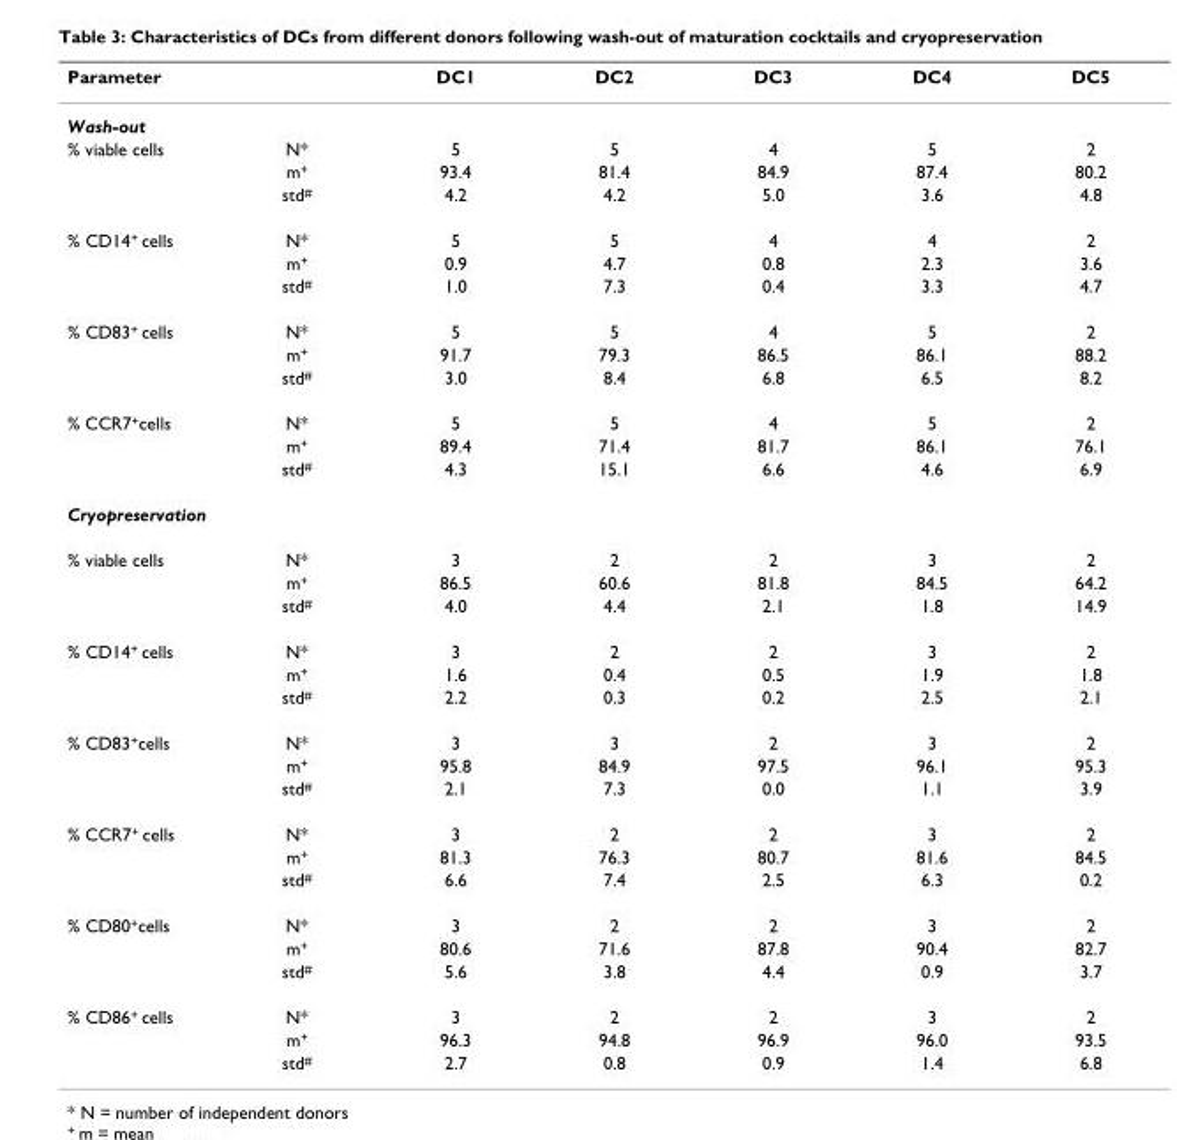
<table><thead><tr><td>Parameter</td><td></td><td>DC1</td><td>DC2</td><td>DC3</td><td>DC4</td><td>DC5</td></tr></thead><tbody><tr><td colspan="7">Wash-out</td></tr><tr><td rowspan="3">% viable cells</td><td>N*</td><td>5</td><td>5</td><td>4</td><td>5</td><td>2</td></tr><tr><td>m<sup>+</sup></td><td>93.4</td><td>81.4</td><td>84.9</td><td>87.4</td><td>80.2</td></tr><tr><td>std<sup>#</sup></td><td>4.2</td><td>4.2</td><td>5.0</td><td>3.6</td><td>4.8</td></tr><tr><td rowspan="3">% CD14<sup>+</sup> cells</td><td>N*</td><td>5</td><td>5</td><td>4</td><td>4</td><td>2</td></tr><tr><td>m<sup>+</sup></td><td>0.9</td><td>4.7</td><td>0.8</td><td>2.3</td><td>3.6</td></tr><tr><td>std<sup>#</sup></td><td>1.0</td><td>7.3</td><td>0.4</td><td>3.3</td><td>4.7</td></tr><tr><td rowspan="3">% CD83<sup>+</sup> cells</td><td>N*</td><td>5</td><td>5</td><td>4</td><td>5</td><td>2</td></tr><tr><td>m<sup>+</sup></td><td>91.7</td><td>79.3</td><td>86.5</td><td>86.1</td><td>88.2</td></tr><tr><td>std<sup>#</sup></td><td>3.0</td><td>8.4</td><td>6.8</td><td>6.5</td><td>8.2</td></tr><tr><td rowspan="3">% CCR7<sup>+</sup>cells</td><td>N*</td><td>5</td><td>5</td><td>4</td><td>5</td><td>2</td></tr><tr><td>m<sup>+</sup></td><td>89.4</td><td>71.4</td><td>81.7</td><td>86.1</td><td>76.1</td></tr><tr><td>std<sup>#</sup></td><td>4.3</td><td>15.1</td><td>6.6</td><td>4.6</td><td>6.9</td></tr><tr><td colspan="7">Cryopreservation</td></tr><tr><td rowspan="3">% viable cells</td><td>N*</td><td>3</td><td>2</td><td>2</td><td>3</td><td>2</td></tr><tr><td>m<sup>+</sup></td><td>86.5</td><td>60.6</td><td>81.8</td><td>84.5</td><td>64.2</td></tr><tr><td>std<sup>#</sup></td><td>4.0</td><td>4.4</td><td>2.1</td><td>1.8</td><td>14.9</td></tr><tr><td rowspan="3">% CD14<sup>+</sup> cells</td><td>N*</td><td>3</td><td>2</td><td>2</td><td>3</td><td>2</td></tr><tr><td>m<sup>+</sup></td><td>1.6</td><td>0.4</td><td>0.5</td><td>1.9</td><td>1.8</td></tr><tr><td>std<sup>#</sup></td><td>2.2</td><td>0.3</td><td>0.2</td><td>2.5</td><td>2.1</td></tr><tr><td rowspan="3">% CD83<sup>+</sup>cells</td><td>N*</td><td>3</td><td>3</td><td>2</td><td>3</td><td>2</td></tr><tr><td>m<sup>+</sup></td><td>95.8</td><td>84.9</td><td>97.5</td><td>96.1</td><td>95.3</td></tr><tr><td>std<sup>#</sup></td><td>2.1</td><td>7.3</td><td>0.0</td><td>1.1</td><td>3.9</td></tr><tr><td rowspan="3">% CCR7<sup>+</sup> cells</td><td>N*</td><td>3</td><td>2</td><td>2</td><td>3</td><td>2</td></tr><tr><td>m<sup>+</sup></td><td>81.3</td><td>76.3</td><td>80.7</td><td>81.6</td><td>84.5</td></tr><tr><td>std<sup>#</sup></td><td>6.6</td><td>7.4</td><td>2.5</td><td>6.3</td><td>0.2</td></tr><tr><td rowspan="3">% CD80<sup>+</sup>cells</td><td>N*</td><td>3</td><td>2</td><td>2</td><td>3</td><td>2</td></tr><tr><td>m<sup>+</sup></td><td>80.6</td><td>71.6</td><td>87.8</td><td>90.4</td><td>82.7</td></tr><tr><td>std<sup>#</sup></td><td>5.6</td><td>3.8</td><td>4.4</td><td>0.9</td><td>3.7</td></tr><tr><td rowspan="3">% CD86<sup>+</sup> cells</td><td>N*</td><td>3</td><td>2</td><td>2</td><td>3</td><td>2</td></tr><tr><td>m<sup>+</sup></td><td>96.3</td><td>94.8</td><td>96.9</td><td>96.0</td><td>93.5</td></tr><tr><td>std<sup>#</sup></td><td>2.7</td><td>0.8</td><td>0.9</td><td>1.4</td><td>6.8</td></tr></tbody></table>